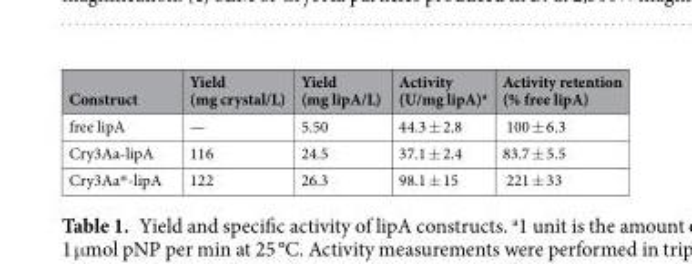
<table><thead><tr><td>Construct</td><td>Yield (mg crystal/L)</td><td>Yield (mg lipA/L)</td><td>Activity (U/mg lipA)<sup>a</sup></td><td>Activity retention (% free lipA)</td></tr></thead><tbody><tr><td>free lipA</td><td>—</td><td>5.50</td><td>44.3 ± 2.8</td><td>100 ± 6.3</td></tr><tr><td>Cry3Aa-lipA</td><td>116</td><td>24.5</td><td>37.1 ± 2.4</td><td>83.7 ± 5.5</td></tr><tr><td>Cry3Aa*-lipA</td><td>122</td><td>26.3</td><td>98.1 ± 15</td><td>221 ± 33</td></tr></tbody></table>